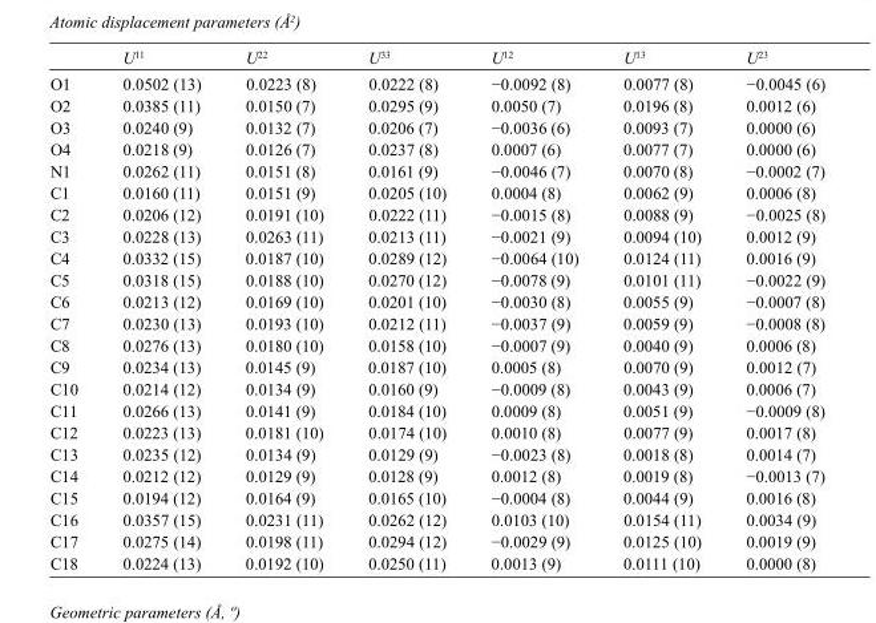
<table><thead><tr><td></td><td>U<sup>11</sup></td><td>U<sup>22</sup></td><td>U<sup>33</sup></td><td>U<sup>12</sup></td><td>U<sup>13</sup></td><td>U<sup>23</sup></td></tr></thead><tbody><tr><td>O1</td><td>0.0502 (13)</td><td>0.0223 (8)</td><td>0.0222 (8)</td><td>−0.0092 (8)</td><td>0.0077 (8)</td><td>−0.0045 (6)</td></tr><tr><td>O2</td><td>0.0385 (11)</td><td>0.0150 (7)</td><td>0.0295 (9)</td><td>0.0050 (7)</td><td>0.0196 (8)</td><td>0.0012 (6)</td></tr><tr><td>O3</td><td>0.0240 (9)</td><td>0.0132 (7)</td><td>0.0206 (7)</td><td>−0.0036 (6)</td><td>0.0093 (7)</td><td>0.0000 (6)</td></tr><tr><td>O4</td><td>0.0218 (9)</td><td>0.0126 (7)</td><td>0.0237 (8)</td><td>0.0007 (6)</td><td>0.0077 (7)</td><td>0.0000 (6)</td></tr><tr><td>N1</td><td>0.0262 (11)</td><td>0.0151 (8)</td><td>0.0161 (9)</td><td>−0.0046 (7)</td><td>0.0070 (8)</td><td>−0.0002 (7)</td></tr><tr><td>C1</td><td>0.0160 (11)</td><td>0.0151 (9)</td><td>0.0205 (10)</td><td>0.0004 (8)</td><td>0.0062 (9)</td><td>0.0006 (8)</td></tr><tr><td>C2</td><td>0.0206 (12)</td><td>0.0191 (10)</td><td>0.0222 (11)</td><td>−0.0015 (8)</td><td>0.0088 (9)</td><td>−0.0025 (8)</td></tr><tr><td>C3</td><td>0.0228 (13)</td><td>0.0263 (11)</td><td>0.0213 (11)</td><td>−0.0021 (9)</td><td>0.0094 (10)</td><td>0.0012 (9)</td></tr><tr><td>C4</td><td>0.0332 (15)</td><td>0.0187 (10)</td><td>0.0289 (12)</td><td>−0.0064 (10)</td><td>0.0124 (11)</td><td>0.0016 (9)</td></tr><tr><td>C5</td><td>0.0318 (15)</td><td>0.0188 (10)</td><td>0.0270 (12)</td><td>−0.0078 (9)</td><td>0.0101 (11)</td><td>−0.0022 (9)</td></tr><tr><td>C6</td><td>0.0213 (12)</td><td>0.0169 (10)</td><td>0.0201 (10)</td><td>−0.0030 (8)</td><td>0.0055 (9)</td><td>−0.0007 (8)</td></tr><tr><td>C7</td><td>0.0230 (13)</td><td>0.0193 (10)</td><td>0.0212 (11)</td><td>−0.0037 (9)</td><td>0.0059 (9)</td><td>−0.0008 (8)</td></tr><tr><td>C8</td><td>0.0276 (13)</td><td>0.0180 (10)</td><td>0.0158 (10)</td><td>−0.0007 (9)</td><td>0.0040 (9)</td><td>0.0006 (8)</td></tr><tr><td>C9</td><td>0.0234 (13)</td><td>0.0145 (9)</td><td>0.0187 (10)</td><td>0.0005 (8)</td><td>0.0070 (9)</td><td>0.0012 (7)</td></tr><tr><td>C10</td><td>0.0214 (12)</td><td>0.0134 (9)</td><td>0.0160 (9)</td><td>−0.0009 (8)</td><td>0.0043 (9)</td><td>0.0006 (7)</td></tr><tr><td>C11</td><td>0.0266 (13)</td><td>0.0141 (9)</td><td>0.0184 (10)</td><td>0.0009 (8)</td><td>0.0051 (9)</td><td>−0.0009 (8)</td></tr><tr><td>C12</td><td>0.0223 (13)</td><td>0.0181 (10)</td><td>0.0174 (10)</td><td>0.0010 (8)</td><td>0.0077 (9)</td><td>0.0017 (8)</td></tr><tr><td>C13</td><td>0.0235 (12)</td><td>0.0134 (9)</td><td>0.0129 (9)</td><td>−0.0023 (8)</td><td>0.0018 (8)</td><td>0.0014 (7)</td></tr><tr><td>C14</td><td>0.0212 (12)</td><td>0.0129 (9)</td><td>0.0128 (9)</td><td>0.0012 (8)</td><td>0.0019 (8)</td><td>−0.0013 (7)</td></tr><tr><td>C15</td><td>0.0194 (12)</td><td>0.0164 (9)</td><td>0.0165 (10)</td><td>−0.0004 (8)</td><td>0.0044 (9)</td><td>0.0016 (8)</td></tr><tr><td>C16</td><td>0.0357 (15)</td><td>0.0231 (11)</td><td>0.0262 (12)</td><td>0.0103 (10)</td><td>0.0154 (11)</td><td>0.0034 (9)</td></tr><tr><td>C17</td><td>0.0275 (14)</td><td>0.0198 (11)</td><td>0.0294 (12)</td><td>−0.0029 (9)</td><td>0.0125 (10)</td><td>0.0019 (9)</td></tr><tr><td>C18</td><td>0.0224 (13)</td><td>0.0192 (10)</td><td>0.0250 (11)</td><td>0.0013 (9)</td><td>0.0111 (10)</td><td>0.0000 (8)</td></tr></tbody></table>